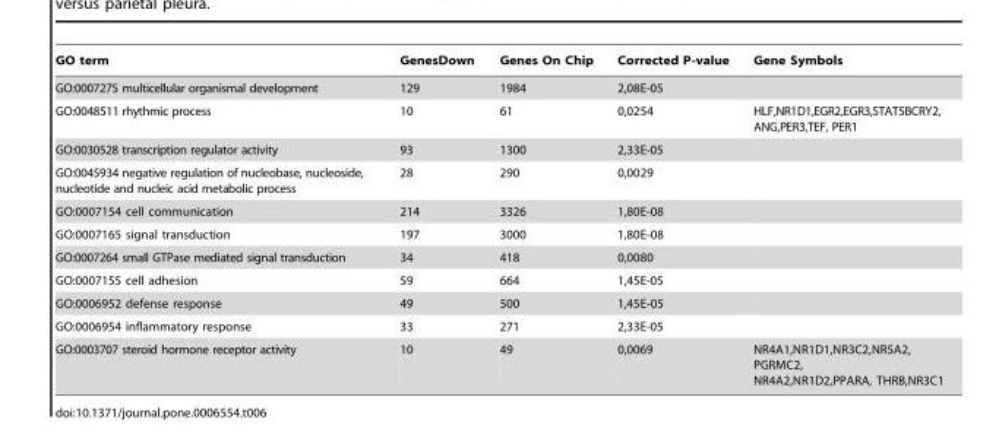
<table><thead><tr><td>GO term</td><td>GenesDown</td><td>Genes On Chip</td><td>Corrected P-value</td><td>Gene Symbols</td></tr></thead><tbody><tr><td>GO:0007275 multicellular organismal development</td><td>129</td><td>1984</td><td>2,08E-05</td><td></td></tr><tr><td>GO:0048511 rhythmic process</td><td>10</td><td>61</td><td>0,0254</td><td>HLF,NR1D1,EGR2,EGR3,STAT5BCRY2, ANG,PER3,TEF, PER1</td></tr><tr><td>GO:0030528 transcription regulator activity</td><td>93</td><td>1300</td><td>2,33E-05</td><td></td></tr><tr><td>GO:0045934 negative regulation of nucleobase, nucleoside, nucleotide and nucleic acid metabolic process</td><td>28</td><td>290</td><td>0,0029</td><td></td></tr><tr><td>GO:0007154 cell communication</td><td>214</td><td>3326</td><td>1,80E-08</td><td></td></tr><tr><td>GO:0007165 signal transduction</td><td>197</td><td>3000</td><td>1,80E-08</td><td></td></tr><tr><td>GO:0007264 small GTPase mediated signal transduction</td><td>34</td><td>418</td><td>0,0080</td><td></td></tr><tr><td>GO:0007155 cell adhesion</td><td>59</td><td>664</td><td>1,45E-05</td><td></td></tr><tr><td>GO:0006952 defense response</td><td>49</td><td>500</td><td>1,45E-05</td><td></td></tr><tr><td>GO:0006954 inflammatory response</td><td>33</td><td>271</td><td>2,33E-05</td><td></td></tr><tr><td>GO:0003707 steroid hormone receptor activity</td><td>10</td><td>49</td><td>0,0069</td><td>NR4A1,NR1D1,NR3C2,NR5A2, PGRMC2, NR4A2,NR1D2,PPARA, THRB,NR3C1</td></tr></tbody></table>